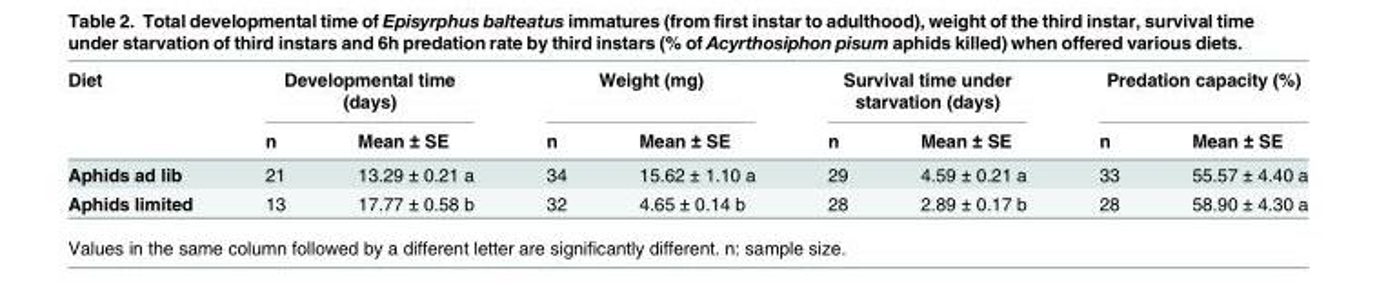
<table><thead><tr><td rowspan="2">Diet</td><td colspan="2">Developmental time (days)</td><td colspan="2">Weight (mg)</td><td colspan="2">Survival time under starvation (days)</td><td colspan="2">Predation capacity (%)</td></tr><tr><td>n</td><td>Mean ± SE</td><td>n</td><td>Mean ± SE</td><td>n</td><td>Mean ± SE</td><td>n</td><td>Mean ± SE</td></tr></thead><tbody><tr><td>Aphids ad lib</td><td>21</td><td>13.29 ± 0.21 a</td><td>34</td><td>15.62 ± 1.10 a</td><td>29</td><td>4.59 ± 0.21 a</td><td>33</td><td>55.57 ± 4.40 a</td></tr><tr><td>Aphids limited</td><td>13</td><td>17.77 ± 0.58 b</td><td>32</td><td>4.65 ± 0.14 b</td><td>28</td><td>2.89 ± 0.17 b</td><td>28</td><td>58.90 ± 4.30 a</td></tr></tbody></table>